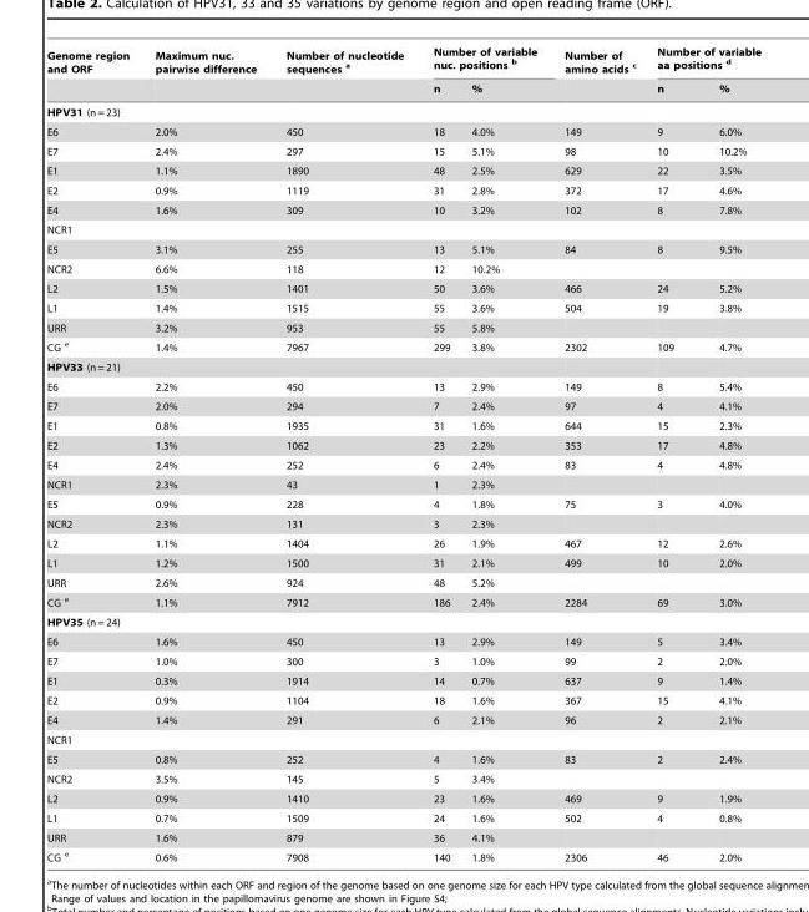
<table><thead><tr><td rowspan="2">Genome region and ORF</td><td rowspan="2">Maximum nuc. pairwise difference</td><td rowspan="2">Number of nucleotide sequences a</td><td colspan="2">Number of variable nuc. positions b</td><td rowspan="2">Number of amino acids c</td><td colspan="2">Number of variable aa positions d</td></tr><tr><td>n</td><td>%</td><td>n</td><td>%</td></tr></thead><tbody><tr><td colspan="8">HPV31 (n = 23)</td></tr><tr><td>E6</td><td>2.0%</td><td>450</td><td>18</td><td>4.0%</td><td>149</td><td>9</td><td>6.0%</td></tr><tr><td>E7</td><td>2.4%</td><td>297</td><td>15</td><td>5.1%</td><td>98</td><td>10</td><td>10.2%</td></tr><tr><td>E1</td><td>1.1%</td><td>1890</td><td>48</td><td>2.5%</td><td>629</td><td>22</td><td>3.5%</td></tr><tr><td>E2</td><td>0.9%</td><td>1119</td><td>31</td><td>2.8%</td><td>372</td><td>17</td><td>4.6%</td></tr><tr><td>E4</td><td>1.6%</td><td>309</td><td>10</td><td>3.2%</td><td>102</td><td>8</td><td>7.8%</td></tr><tr><td colspan="8">NCR1</td></tr><tr><td>E5</td><td>3.1%</td><td>255</td><td>13</td><td>5.1%</td><td>84</td><td>8</td><td>9.5%</td></tr><tr><td>NCR2</td><td>6.6%</td><td>118</td><td>12</td><td>10.2%</td><td></td><td></td><td></td></tr><tr><td>L2</td><td>1.5%</td><td>1401</td><td>50</td><td>3.6%</td><td>466</td><td>24</td><td>5.2%</td></tr><tr><td>L1</td><td>1.4%</td><td>1515</td><td>55</td><td>3.6%</td><td>504</td><td>19</td><td>3.8%</td></tr><tr><td>URR</td><td>3.2%</td><td>953</td><td>55</td><td>5.8%</td><td></td><td></td><td></td></tr><tr><td>CG e</td><td>1.4%</td><td>7967</td><td>299</td><td>3.8%</td><td>2302</td><td>109</td><td>4.7%</td></tr><tr><td colspan="8">HPV33 (n = 21)</td></tr><tr><td>E6</td><td>2.2%</td><td>450</td><td>13</td><td>2.9%</td><td>149</td><td>8</td><td>5.4%</td></tr><tr><td>E7</td><td>2.0%</td><td>294</td><td>7</td><td>2.4%</td><td>97</td><td>4</td><td>4.1%</td></tr><tr><td>E1</td><td>0.8%</td><td>1935</td><td>31</td><td>1.6%</td><td>644</td><td>15</td><td>2.3%</td></tr><tr><td>E2</td><td>1.3%</td><td>1062</td><td>23</td><td>2.2%</td><td>353</td><td>17</td><td>4.8%</td></tr><tr><td>E4</td><td>2.4%</td><td>252</td><td>6</td><td>2.4%</td><td>83</td><td>4</td><td>4.8%</td></tr><tr><td>NCR1</td><td>2.3%</td><td>43</td><td>1</td><td>2.3%</td><td></td><td></td><td></td></tr><tr><td>E5</td><td>0.9%</td><td>228</td><td>4</td><td>1.8%</td><td>75</td><td>3</td><td>4.0%</td></tr><tr><td>NCR2</td><td>2.3%</td><td>131</td><td>3</td><td>2.3%</td><td></td><td></td><td></td></tr><tr><td>L2</td><td>1.1%</td><td>1404</td><td>26</td><td>1.9%</td><td>467</td><td>12</td><td>2.6%</td></tr><tr><td>L1</td><td>1.2%</td><td>1500</td><td>31</td><td>2.1%</td><td>499</td><td>10</td><td>2.0%</td></tr><tr><td>URR</td><td>2.6%</td><td>924</td><td>48</td><td>5.2%</td><td></td><td></td><td></td></tr><tr><td>CG e</td><td>1.1%</td><td>7912</td><td>186</td><td>2.4%</td><td>2284</td><td>69</td><td>3.0%</td></tr><tr><td colspan="8">HPV35 (n = 24)</td></tr><tr><td>E6</td><td>1.6%</td><td>450</td><td>13</td><td>2.9%</td><td>149</td><td>5</td><td>3.4%</td></tr><tr><td>E7</td><td>1.0%</td><td>300</td><td>3</td><td>1.0%</td><td>99</td><td>2</td><td>2.0%</td></tr><tr><td>E1</td><td>0.3%</td><td>1914</td><td>14</td><td>0.7%</td><td>637</td><td>9</td><td>1.4%</td></tr><tr><td>E2</td><td>0.9%</td><td>1104</td><td>18</td><td>1.6%</td><td>367</td><td>15</td><td>4.1%</td></tr><tr><td>E4</td><td>1.4%</td><td>291</td><td>6</td><td>2.1%</td><td>96</td><td>2</td><td>2.1%</td></tr><tr><td colspan="8">NCR1</td></tr><tr><td>E5</td><td>0.8%</td><td>252</td><td>4</td><td>1.6%</td><td>83</td><td>2</td><td>2.4%</td></tr><tr><td>NCR2</td><td>3.5%</td><td>145</td><td>5</td><td>3.4%</td><td></td><td></td><td></td></tr><tr><td>L2</td><td>0.9%</td><td>1410</td><td>23</td><td>1.6%</td><td>469</td><td>9</td><td>1.9%</td></tr><tr><td>L1</td><td>0.7%</td><td>1509</td><td>24</td><td>1.6%</td><td>502</td><td>4</td><td>0.8%</td></tr><tr><td>URR</td><td>1.6%</td><td>879</td><td>36</td><td>4.1%</td><td></td><td></td><td></td></tr><tr><td>CG e</td><td>0.6%</td><td>7908</td><td>140</td><td>1.8%</td><td>2306</td><td>46</td><td>2.0%</td></tr></tbody></table>